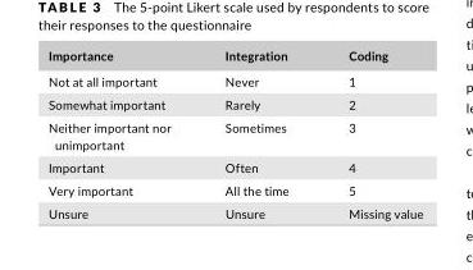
<table><thead><tr><td>Importance</td><td>Integration</td><td>Coding</td></tr></thead><tbody><tr><td>Not at all important</td><td>Never</td><td>1</td></tr><tr><td>Somewhat important</td><td>Rarely</td><td>2</td></tr><tr><td>Neither important nor unimportant</td><td>Sometimes</td><td>3</td></tr><tr><td>Important</td><td>Often</td><td>4</td></tr><tr><td>Very important</td><td>All the time</td><td>5</td></tr><tr><td>Unsure</td><td>Unsure</td><td>Missing value</td></tr></tbody></table>